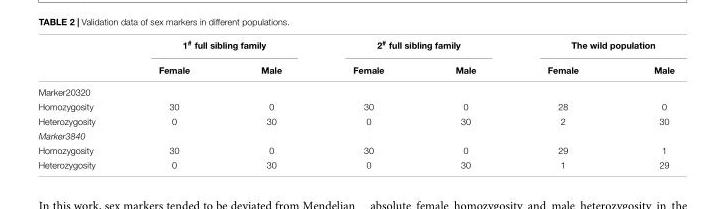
<table><thead><tr><td rowspan="2"></td><td colspan="2">1<sup>#</sup> full sibling family</td><td colspan="2">2<sup>#</sup> full sibling family</td><td colspan="2">The wild population</td></tr><tr><td>Female</td><td>Male</td><td>Female</td><td>Male</td><td>Female</td><td>Male</td></tr></thead><tbody><tr><td colspan="7">Marker20320</td></tr><tr><td>Homozygosity</td><td>30</td><td>0</td><td>30</td><td>0</td><td>28</td><td>0</td></tr><tr><td>Heterozygosity</td><td>0</td><td>30</td><td>0</td><td>30</td><td>2</td><td>30</td></tr><tr><td colspan="7">Marker3840</td></tr><tr><td>Homozygosity</td><td>30</td><td>0</td><td>30</td><td>0</td><td>29</td><td>1</td></tr><tr><td>Heterozygosity</td><td>0</td><td>30</td><td>0</td><td>30</td><td>1</td><td>29</td></tr></tbody></table>